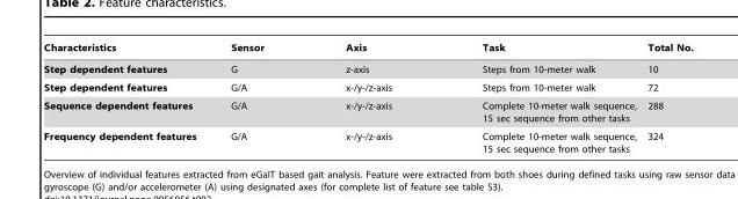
<table><thead><tr><td>Characteristics</td><td>Sensor</td><td>Axis</td><td>Task</td><td>Total No.</td></tr></thead><tbody><tr><td>Step dependent features</td><td>G</td><td>z-axis</td><td>Steps from 10-meter walk</td><td>10</td></tr><tr><td>Step dependent features</td><td>G/A</td><td>x-/y-/z-axis</td><td>Steps from 10-meter walk</td><td>72</td></tr><tr><td>Sequence dependent features</td><td>G/A</td><td>x-/y-/z-axis</td><td>Complete 10-meter walk sequence, 15 sec sequence from other tasks</td><td>288</td></tr><tr><td>Frequency dependent features</td><td>G/A</td><td>x-/y-/z-axis</td><td>Complete 10-meter walk sequence, 15 sec sequence from other tasks</td><td>324</td></tr></tbody></table>